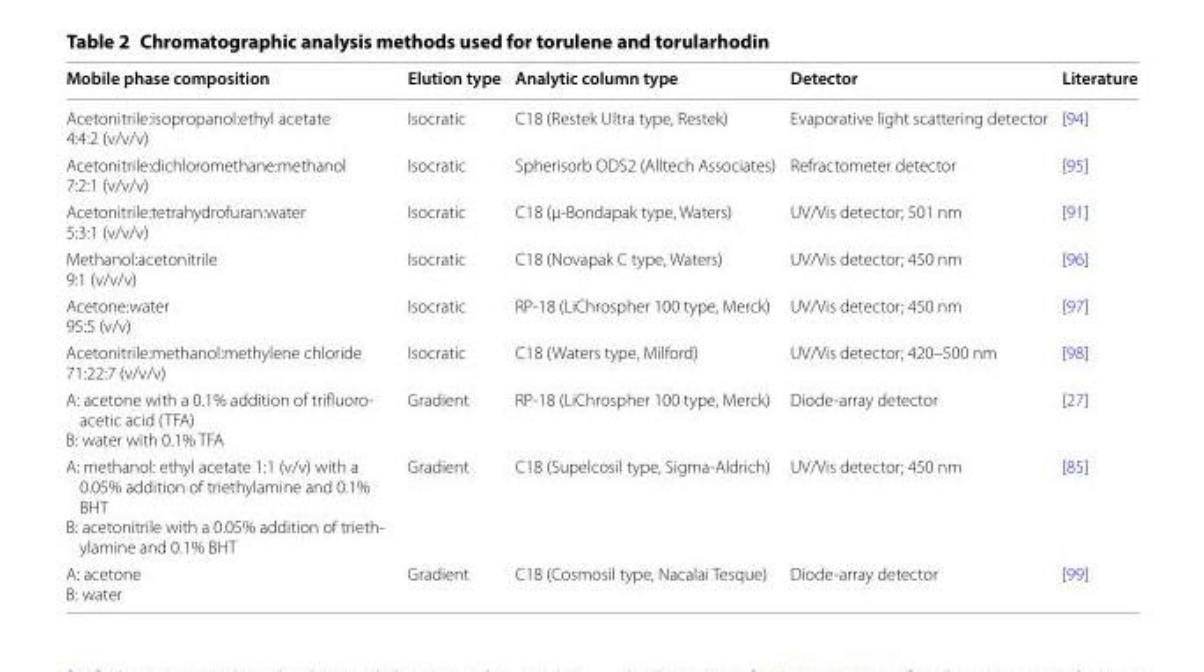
<table><thead><tr><td>Mobile phase composition</td><td>Elution type</td><td>Analytic column type</td><td>Detector</td><td>Literature</td></tr></thead><tbody><tr><td>Acetonitrile:isopropanol:ethyl acetate 4:4:2 (v/v/v)</td><td>Isocratic</td><td>C18 (Restek Ultra type, Restek)</td><td>Evaporative light scattering detector</td><td>[94]</td></tr><tr><td>Acetonitrile:dichloromethane:methanol 7:2:1 (v/v/v)</td><td>Isocratic</td><td>Spherisorb ODS2 (Alltech Associates)</td><td>Refractometer detector</td><td>[95]</td></tr><tr><td>Acetonitrile:tetrahydrofuran:water 5:3:1 (v/v/v)</td><td>Isocratic</td><td>C18 (µ-Bondapak type, Waters)</td><td>UV/Vis detector; 501 nm</td><td>[91]</td></tr><tr><td>Methanol:acetonitrile 9:1 (v/v/v)</td><td>Isocratic</td><td>C18 (Novapak C type, Waters)</td><td>UV/Vis detector; 450 nm</td><td>[96]</td></tr><tr><td>Acetone:water 95:5 (v/v)</td><td>Isocratic</td><td>RP-18 (LiChrospher 100 type, Merck)</td><td>UV/Vis detector; 450 nm</td><td>[97]</td></tr><tr><td>Acetonitrile:methanol:methylene chloride 71:22:7 (v/v/v)</td><td>Isocratic</td><td>C18 (Waters type, Milford)</td><td>UV/Vis detector; 420–500 nm</td><td>[98]</td></tr><tr><td>A: acetone with a 0.1% addition of trifluoro- acetic acid (TFA) B: water with 0.1% TFA</td><td>Gradient</td><td>RP-18 (LiChrospher 100 type, Merck)</td><td>Diode-array detector</td><td>[27]</td></tr><tr><td>A: methanol: ethyl acetate 1:1 (v/v) with a 0.05% addition of triethylamine and 0.1% BHT B: acetonitrile with a 0.05% addition of trieth- ylamine and 0.1% BHT</td><td>Gradient</td><td>C18 (Supelcosil type, Sigma-Aldrich)</td><td>UV/Vis detector; 450 nm</td><td>[85]</td></tr><tr><td>A: acetone B: water</td><td>Gradient</td><td>C18 (Cosmosil type, Nacalai Tesque)</td><td>Diode-array detector</td><td>[99]</td></tr></tbody></table>